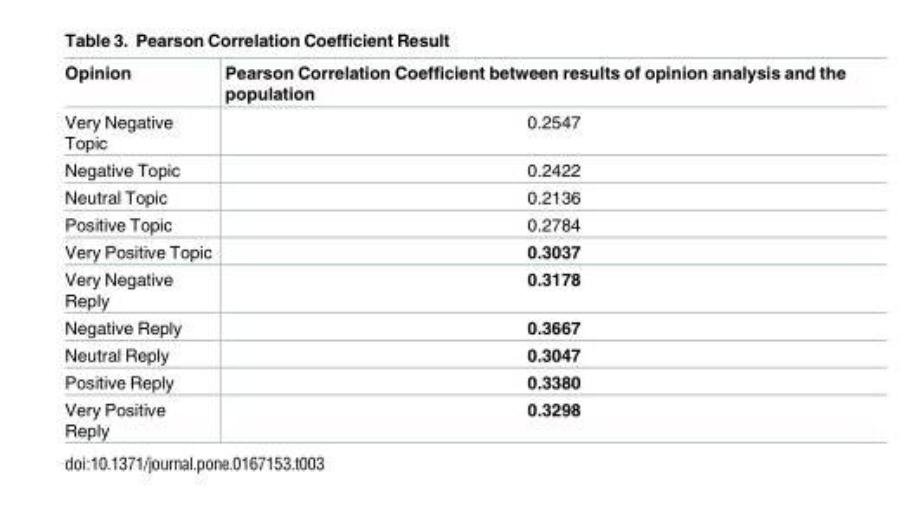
<table><thead><tr><td>Opinion</td><td>Pearson Correlation Coefficient between results of opinion analysis and the population</td></tr></thead><tbody><tr><td>Very Negative Topic</td><td>0.2547</td></tr><tr><td>Negative Topic</td><td>0.2422</td></tr><tr><td>Neutral Topic</td><td>0.2136</td></tr><tr><td>Positive Topic</td><td>0.2784</td></tr><tr><td>Very Positive Topic</td><td>0.3037</td></tr><tr><td>Very Negative Reply</td><td>0.3178</td></tr><tr><td>Negative Reply</td><td>0.3667</td></tr><tr><td>Neutral Reply</td><td>0.3047</td></tr><tr><td>Positive Reply</td><td>0.3380</td></tr><tr><td>Very Positive Reply</td><td>0.3298</td></tr></tbody></table>